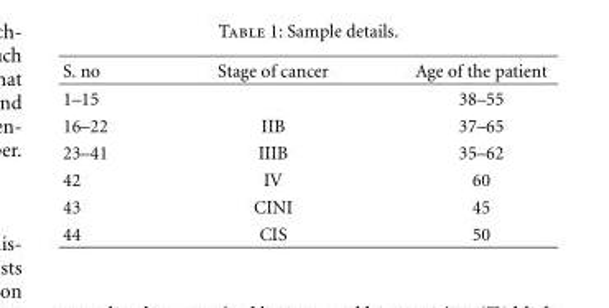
<table><thead><tr><td>S. no</td><td>Stage of cancer</td><td>Age of the patient</td></tr></thead><tbody><tr><td>1–15</td><td></td><td>38–55</td></tr><tr><td>16–22</td><td>IIB</td><td>37–65</td></tr><tr><td>23–41</td><td>IIIB</td><td>35–62</td></tr><tr><td>42</td><td>IV</td><td>60</td></tr><tr><td>43</td><td>CINI</td><td>45</td></tr><tr><td>44</td><td>CIS</td><td>50</td></tr></tbody></table>